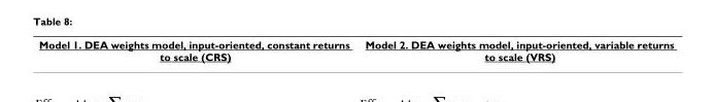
<table><thead><tr><td>Model 1. DEA weights model, input-oriented, constant returns to scale (CRS)</td><td>Model 2. DEA weights model, input-oriented, variable returns to scale (VRS)</td></tr></thead><tbody></tbody></table>